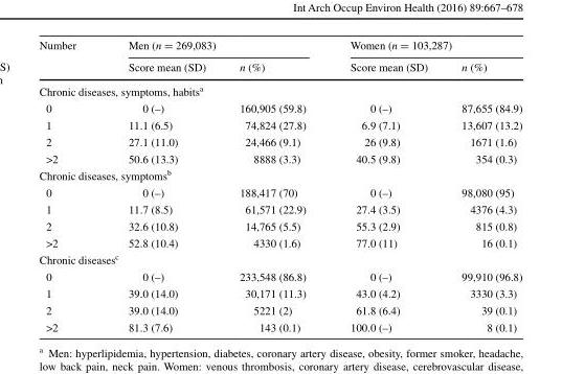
<table><thead><tr><td rowspan="2">Number</td><td colspan="2">Men (n = 269,083)</td><td colspan="2">Women (n = 103,287)</td></tr><tr><td>Score mean (SD)</td><td>n (%)</td><td>Score mean (SD)</td><td>n (%)</td></tr></thead><tbody><tr><td colspan="5">Chronic diseases, symptoms, habits<sup>a</sup></td></tr><tr><td>0</td><td>0 (–)</td><td>160,905 (59.8)</td><td>0 (–)</td><td>87,655 (84.9)</td></tr><tr><td>1</td><td>11.1 (6.5)</td><td>74,824 (27.8)</td><td>6.9 (7.1)</td><td>13,607 (13.2)</td></tr><tr><td>2</td><td>27.1 (11.0)</td><td>24,466 (9.1)</td><td>26 (9.8)</td><td>1671 (1.6)</td></tr><tr><td>&gt;2</td><td>50.6 (13.3)</td><td>8888 (3.3)</td><td>40.5 (9.8)</td><td>354 (0.3)</td></tr><tr><td colspan="5">Chronic diseases, symptoms<sup>b</sup></td></tr><tr><td>0</td><td>0 (–)</td><td>188,417 (70)</td><td>0 (–)</td><td>98,080 (95)</td></tr><tr><td>1</td><td>11.7 (8.5)</td><td>61,571 (22.9)</td><td>27.4 (3.5)</td><td>4376 (4.3)</td></tr><tr><td>2</td><td>32.6 (10.8)</td><td>14,765 (5.5)</td><td>55.3 (2.9)</td><td>815 (0.8)</td></tr><tr><td>&gt;2</td><td>52.8 (10.4)</td><td>4330 (1.6)</td><td>77.0 (11)</td><td>16 (0.1)</td></tr><tr><td colspan="5">Chronic diseases<sup>c</sup></td></tr><tr><td>0</td><td>0 (–)</td><td>233,548 (86.8)</td><td>0 (–)</td><td>99,910 (96.8)</td></tr><tr><td>1</td><td>39.0 (14.0)</td><td>30,171 (11.3)</td><td>43.0 (4.2)</td><td>3330 (3.3)</td></tr><tr><td>2</td><td>39.0 (14.0)</td><td>5221 (2)</td><td>61.8 (6.4)</td><td>39 (0.1)</td></tr><tr><td>&gt;2</td><td>81.3 (7.6)</td><td>143 (0.1)</td><td>100.0 (–)</td><td>8 (0.1)</td></tr></tbody></table>